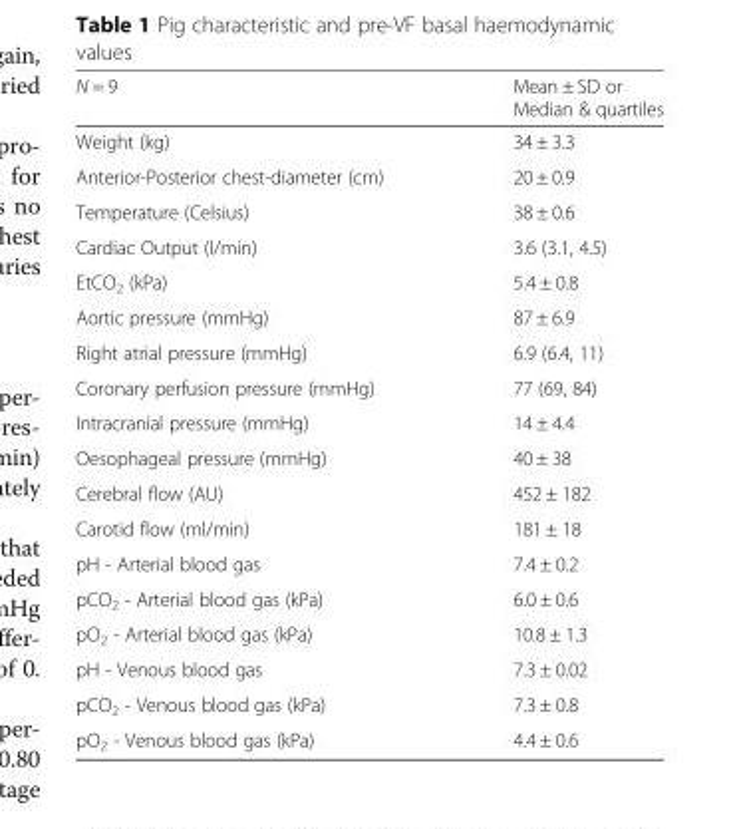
<table><thead><tr><td>N = 9</td><td>Mean ± SD or Median &amp; quartiles</td></tr></thead><tbody><tr><td>Weight (kg)</td><td>34 ± 3.3</td></tr><tr><td>Anterior-Posterior chest-diameter (cm)</td><td>20 ± 0.9</td></tr><tr><td>Temperature (Celsius)</td><td>38 ± 0.6</td></tr><tr><td>Cardiac Output (l/min)</td><td>3.6 (3.1, 4.5)</td></tr><tr><td>EtCO<sub>2</sub> (kPa)</td><td>5.4 ± 0.8</td></tr><tr><td>Aortic pressure (mmHg)</td><td>87 ± 6.9</td></tr><tr><td>Right atrial pressure (mmHg)</td><td>6.9 (6.4, 11)</td></tr><tr><td>Coronary perfusion pressure (mmHg)</td><td>77 (69, 84)</td></tr><tr><td>Intracranial pressure (mmHg)</td><td>14 ± 4.4</td></tr><tr><td>Oesophageal pressure (mmHg)</td><td>40 ± 38</td></tr><tr><td>Cerebral flow (AU)</td><td>452 ± 182</td></tr><tr><td>Carotid flow (ml/min)</td><td>181 ± 18</td></tr><tr><td>pH - Arterial blood gas</td><td>7.4 ± 0.2</td></tr><tr><td>pCO<sub>2</sub> - Arterial blood gas (kPa)</td><td>6.0 ± 0.6</td></tr><tr><td>pO<sub>2</sub> - Arterial blood gas (kPa)</td><td>10.8 ± 1.3</td></tr><tr><td>pH - Venous blood gas</td><td>7.3 ± 0.02</td></tr><tr><td>pCO<sub>2</sub> - Venous blood gas (kPa)</td><td>7.3 ± 0.8</td></tr><tr><td>pO<sub>2</sub> - Venous blood gas (kPa)</td><td>4.4 ± 0.6</td></tr></tbody></table>